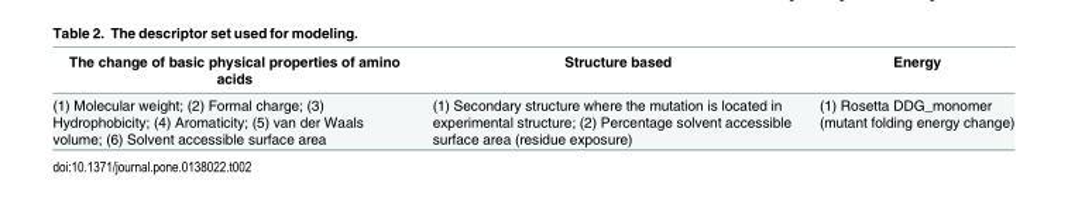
<table><thead><tr><td>The change of basic physical properties of amino acids</td><td>Structure based</td><td>Energy</td></tr></thead><tbody><tr><td>(1) Molecular weight; (2) Formal charge; (3) Hydrophobicity; (4) Aromaticity; (5) van der Waals volume; (6) Solvent accessible surface area</td><td>(1) Secondary structure where the mutation is located in experimental structure; (2) Percentage solvent accessible surface area (residue exposure)</td><td>(1) Rosetta DDG_monomer (mutant folding energy change)</td></tr></tbody></table>